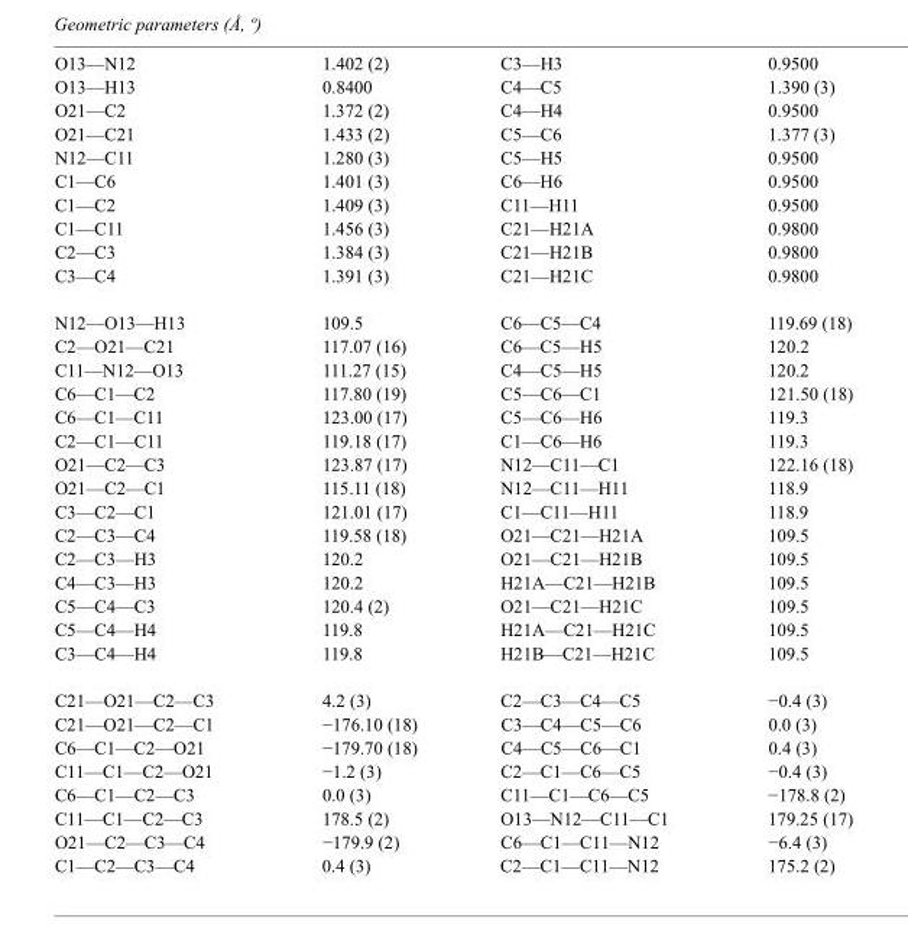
<table><tbody><tr><td>O13—N12</td><td>1.402 (2)</td><td>C3—H3</td><td>0.9500</td></tr><tr><td>O13—H13</td><td>0.8400</td><td>C4—C5</td><td>1.390 (3)</td></tr><tr><td>O21—C2</td><td>1.372 (2)</td><td>C4—H4</td><td>0.9500</td></tr><tr><td>O21—C21</td><td>1.433 (2)</td><td>C5—C6</td><td>1.377 (3)</td></tr><tr><td>N12—C11</td><td>1.280 (3)</td><td>C5—H5</td><td>0.9500</td></tr><tr><td>C1—C6</td><td>1.401 (3)</td><td>C6—H6</td><td>0.9500</td></tr><tr><td>C1—C2</td><td>1.409 (3)</td><td>C11—H11</td><td>0.9500</td></tr><tr><td>C1—C11</td><td>1.456 (3)</td><td>C21—H21A</td><td>0.9800</td></tr><tr><td>C2—C3</td><td>1.384 (3)</td><td>C21—H21B</td><td>0.9800</td></tr><tr><td>C3—C4</td><td>1.391 (3)</td><td>C21—H21C</td><td>0.9800</td></tr><tr><td>N12—O13—H13</td><td>109.5</td><td>C6—C5—C4</td><td>119.69 (18)</td></tr><tr><td>C2—O21—C21</td><td>117.07 (16)</td><td>C6—C5—H5</td><td>120.2</td></tr><tr><td>C11—N12—O13</td><td>111.27 (15)</td><td>C4—C5—H5</td><td>120.2</td></tr><tr><td>C6—C1—C2</td><td>117.80 (19)</td><td>C5—C6—C1</td><td>121.50 (18)</td></tr><tr><td>C6—C1—C11</td><td>123.00 (17)</td><td>C5—C6—H6</td><td>119.3</td></tr><tr><td>C2—C1—C11</td><td>119.18 (17)</td><td>C1—C6—H6</td><td>119.3</td></tr><tr><td>O21—C2—C3</td><td>123.87 (17)</td><td>N12—C11—C1</td><td>122.16 (18)</td></tr><tr><td>O21—C2—C1</td><td>115.11 (18)</td><td>N12—C11—H11</td><td>118.9</td></tr><tr><td>C3—C2—C1</td><td>121.01 (17)</td><td>C1—C11—H11</td><td>118.9</td></tr><tr><td>C2—C3—C4</td><td>119.58 (18)</td><td>O21—C21—H21A</td><td>109.5</td></tr><tr><td>C2—C3—H3</td><td>120.2</td><td>O21—C21—H21B</td><td>109.5</td></tr><tr><td>C4—C3—H3</td><td>120.2</td><td>H21A—C21—H21B</td><td>109.5</td></tr><tr><td>C5—C4—C3</td><td>120.4 (2)</td><td>O21—C21—H21C</td><td>109.5</td></tr><tr><td>C5—C4—H4</td><td>119.8</td><td>H21A—C21—H21C</td><td>109.5</td></tr><tr><td>C3—C4—H4</td><td>119.8</td><td>H21B—C21—H21C</td><td>109.5</td></tr><tr><td>C21—O21—C2—C3</td><td>4.2 (3)</td><td>C2—C3—C4—C5</td><td>−0.4 (3)</td></tr><tr><td>C21—O21—C2—C1</td><td>−176.10 (18)</td><td>C3—C4—C5—C6</td><td>0.0 (3)</td></tr><tr><td>C6—C1—C2—O21</td><td>−179.70 (18)</td><td>C4—C5—C6—C1</td><td>0.4 (3)</td></tr><tr><td>C11—C1—C2—O21</td><td>−1.2 (3)</td><td>C2—C1—C6—C5</td><td>−0.4 (3)</td></tr><tr><td>C6—C1—C2—C3</td><td>0.0 (3)</td><td>C11—C1—C6—C5</td><td>−178.8 (2)</td></tr><tr><td>C11—C1—C2—C3</td><td>178.5 (2)</td><td>O13—N12—C11—C1</td><td>179.25 (17)</td></tr><tr><td>O21—C2—C3—C4</td><td>−179.9 (2)</td><td>C6—C1—C11—N12</td><td>−6.4 (3)</td></tr><tr><td>C1—C2—C3—C4</td><td>0.4 (3)</td><td>C2—C1—C11—N12</td><td>175.2 (2)</td></tr></tbody></table>